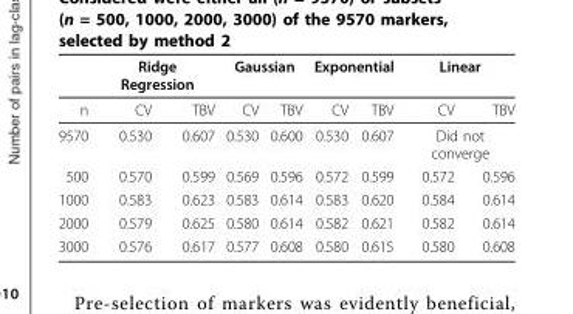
<table><thead><tr><td rowspan="2">n</td><td colspan="2">Ridge Regression</td><td colspan="2">Gaussian</td><td colspan="2">Exponential</td><td colspan="2">Linear</td></tr><tr><td>CV</td><td>TBV</td><td>CV</td><td>TBV</td><td>CV</td><td>TBV</td><td>CV</td><td>TBV</td></tr></thead><tbody><tr><td>9570</td><td>0.530</td><td>0.607</td><td>0.530</td><td>0.600</td><td>0.530</td><td>0.607</td><td colspan="2">Did not converge</td></tr><tr><td>500</td><td>0.570</td><td>0.599</td><td>0.569</td><td>0.596</td><td>0.572</td><td>0.599</td><td>0.572</td><td>0.596</td></tr><tr><td>1000</td><td>0.583</td><td>0.623</td><td>0.583</td><td>0.614</td><td>0.583</td><td>0.620</td><td>0.584</td><td>0.614</td></tr><tr><td>2000</td><td>0.579</td><td>0.625</td><td>0.580</td><td>0.614</td><td>0.582</td><td>0.621</td><td>0.582</td><td>0.614</td></tr><tr><td>3000</td><td>0.576</td><td>0.617</td><td>0.577</td><td>0.608</td><td>0.580</td><td>0.615</td><td>0.580</td><td>0.608</td></tr></tbody></table>